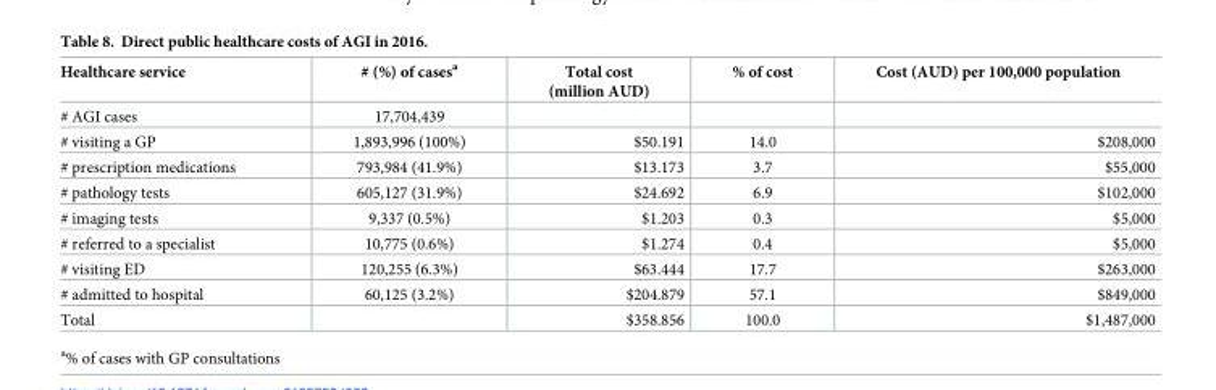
<table><thead><tr><td>Healthcare service</td><td># (%) of cases<sup>a</sup></td><td>Total cost (million AUD)</td><td>% of cost</td><td>Cost (AUD) per 100,000 population</td></tr></thead><tbody><tr><td># AGI cases</td><td>17,704,439</td><td></td><td></td><td></td></tr><tr><td># visiting a GP</td><td>1,893,996 (100%)</td><td>$50.191</td><td>14.0</td><td>$208,000</td></tr><tr><td># prescription medications</td><td>793,984 (41.9%)</td><td>$13.173</td><td>3.7</td><td>$55,000</td></tr><tr><td># pathology tests</td><td>605,127 (31.9%)</td><td>$24.692</td><td>6.9</td><td>$102,000</td></tr><tr><td># imaging tests</td><td>9,337 (0.5%)</td><td>$1.203</td><td>0.3</td><td>$5,000</td></tr><tr><td># referred to a specialist</td><td>10,775 (0.6%)</td><td>$1.274</td><td>0.4</td><td>$5,000</td></tr><tr><td># visiting ED</td><td>120,255 (6.3%)</td><td>$63.444</td><td>17.7</td><td>$263,000</td></tr><tr><td># admitted to hospital</td><td>60,125 (3.2%)</td><td>$204.879</td><td>57.1</td><td>$849,000</td></tr><tr><td>Total</td><td></td><td>$358.856</td><td>100.0</td><td>$1,487,000</td></tr></tbody></table>